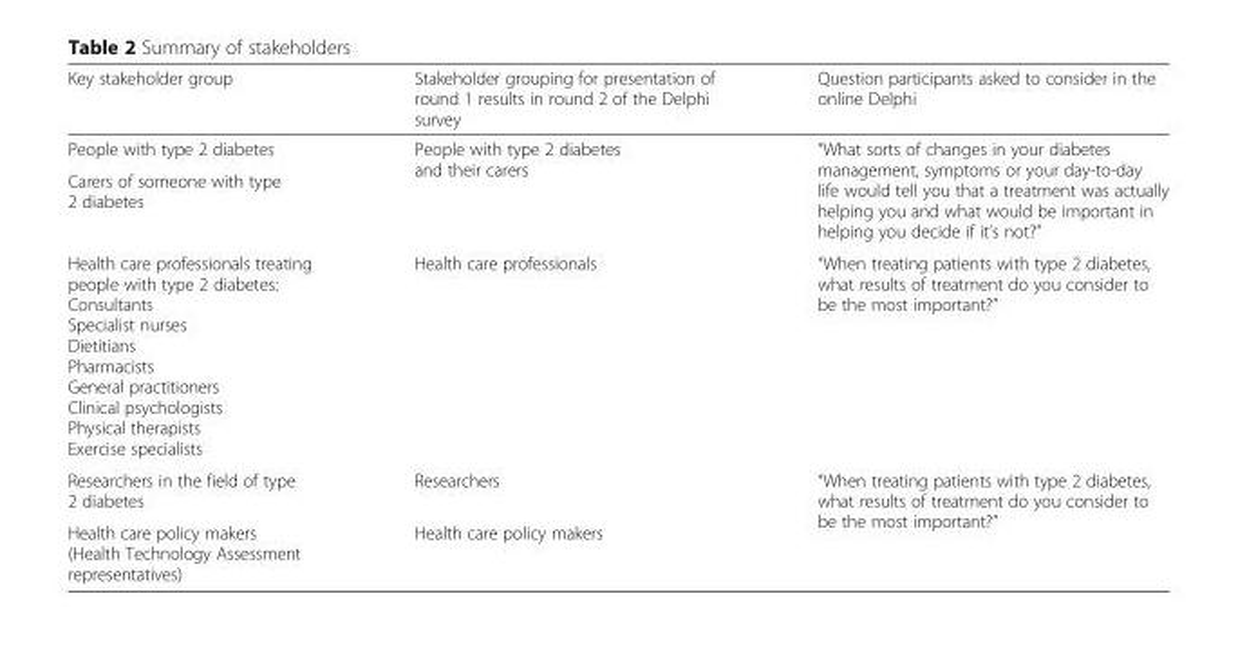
<table><thead><tr><td>Key stakeholder group</td><td>Stakeholder grouping for presentation of round 1 results in round 2 of the Delphi survey</td><td>Question participants asked to consider in the online Delphi</td></tr></thead><tbody><tr><td>People with type 2 diabetes</td><td rowspan="2">People with type 2 diabetes and their carers</td><td rowspan="2">“What sorts of changes in your diabetes management, symptoms or your day-to-day life would tell you that a treatment was actually helping you and what would be important in helping you decide if it’s not?”</td></tr><tr><td>Carers of someone with type 2 diabetes</td></tr><tr><td>Health care professionals treating people with type 2 diabetes: Consultants Specialist nurses Dietitians Pharmacists General practitioners Clinical psychologists Physical therapists Exercise specialists</td><td>Health care professionals</td><td>“When treating patients with type 2 diabetes, what results of treatment do you consider to be the most important?”</td></tr><tr><td>Researchers in the field of type 2 diabetes</td><td>Researchers</td><td rowspan="2">“When treating patients with type 2 diabetes, what results of treatment do you consider to be the most important?”</td></tr><tr><td>Health care policy makers (Health Technology Assessment representatives)</td><td>Health care policy makers</td></tr></tbody></table>